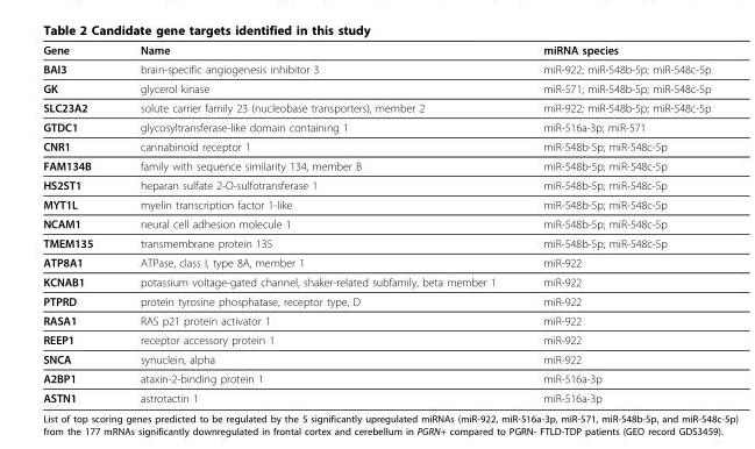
<table><thead><tr><td>Gene</td><td>Name</td><td>miRNA species</td></tr></thead><tbody><tr><td>BAI3</td><td>brain-specific angiogenesis inhibitor 3</td><td>miR-922; miR-548b-5p; miR-548c-5p</td></tr><tr><td>GK</td><td>glycerol kinase</td><td>miR-571; miR-548b-5p; miR-548c-5p</td></tr><tr><td>SLC23A2</td><td>solute carrier family 23 (nucleobase transporters), member 2</td><td>miR-922; miR-548b-5p; miR-548c-5p</td></tr><tr><td>GTDC1</td><td>glycosyltransferase-like domain containing 1</td><td>miR-516a-3p; miR-571</td></tr><tr><td>CNR1</td><td>cannabinoid receptor 1</td><td>miR-548b-5p; miR-548c-5p</td></tr><tr><td>FAM134B</td><td>family with sequence similarity 134, member B</td><td>miR-548b-5p; miR-548c-5p</td></tr><tr><td>HS2ST1</td><td>heparan sulfate 2-O-sulfotransferase 1</td><td>miR-548b-5p; miR-548c-5p</td></tr><tr><td>MYT1L</td><td>myelin transcription factor 1-like</td><td>miR-548b-5p; miR-548c-5p</td></tr><tr><td>NCAM1</td><td>neural cell adhesion molecule 1</td><td>miR-548b-5p; miR-548c-5p</td></tr><tr><td>TMEM135</td><td>transmembrane protein 135</td><td>miR-548b-5p; miR-548c-5p</td></tr><tr><td>ATP8A1</td><td>ATPase, class I, type 8A, member 1</td><td>miR-922</td></tr><tr><td>KCNAB1</td><td>potassium voltage-gated channel, shaker-related subfamily, beta member 1</td><td>miR-922</td></tr><tr><td>PTPRD</td><td>protein tyrosine phosphatase, receptor type, D</td><td>miR-922</td></tr><tr><td>RASA1</td><td>RAS p21 protein activator 1</td><td>miR-922</td></tr><tr><td>REEP1</td><td>receptor accessory protein 1</td><td>miR-922</td></tr><tr><td>SNCA</td><td>synuclein, alpha</td><td>miR-922</td></tr><tr><td>A2BP1</td><td>ataxin-2-binding protein 1</td><td>miR-516a-3p</td></tr><tr><td>ASTN1</td><td>astrotactin 1</td><td>miR-516a-3p</td></tr></tbody></table>